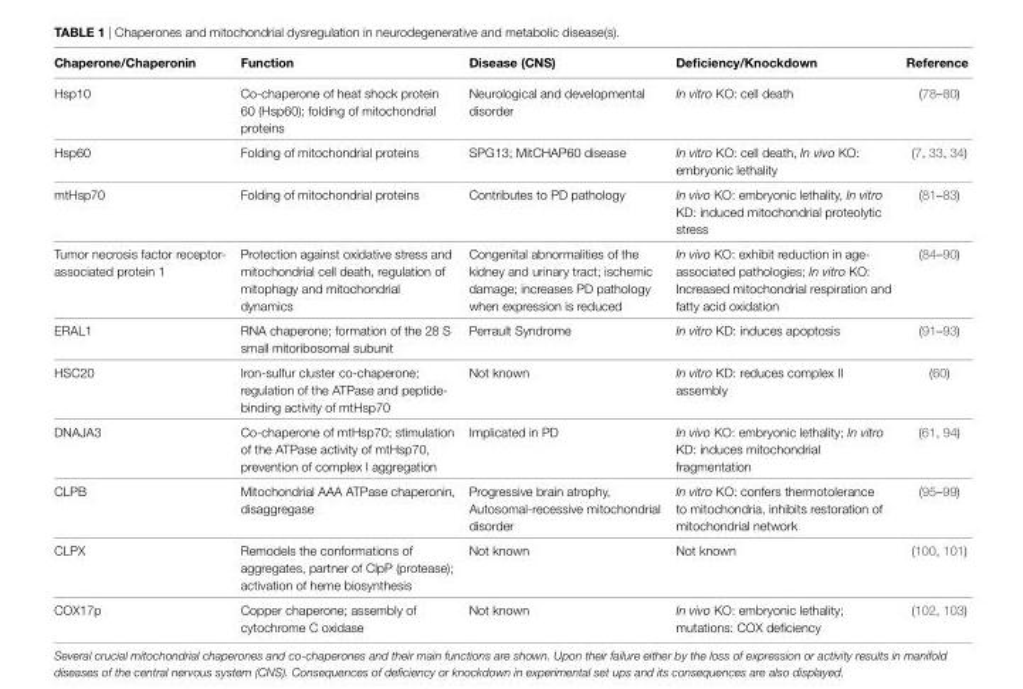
<table><thead><tr><td>Chaperone/Chaperonin</td><td>Function</td><td>disease (Cns)</td><td>deficiency/Knockdown</td><td>reference</td></tr></thead><tbody><tr><td>Hsp10</td><td>Co-chaperone of heat shock protein 60 (Hsp60); folding of mitochondrial proteins</td><td>Neurological and developmental disorder</td><td>In vitro KO: cell death</td><td>(78–80)</td></tr><tr><td>Hsp60</td><td>Folding of mitochondrial proteins</td><td>SPG13; MitCHAP60 disease</td><td>In vitro KO: cell death, In vivo KO: embryonic lethality</td><td>(7, 33, 34)</td></tr><tr><td>mtHsp70</td><td>Folding of mitochondrial proteins</td><td>Contributes to PD pathology</td><td>In vivo KO: embryonic lethality, In vitro KD: induced mitochondrial proteolytic stress</td><td>(81–83)</td></tr><tr><td>Tumor necrosis factor receptor- associated protein 1</td><td>Protection against oxidative stress and mitochondrial cell death, regulation of mitophagy and mitochondrial dynamics</td><td>Congenital abnormalities of the kidney and urinary tract; ischemic damage; increases PD pathology when expression is reduced</td><td>In vivo KO: exhibit reduction in age- associated pathologies; In vitro KO: Increased mitochondrial respiration and fatty acid oxidation</td><td>(84–90)</td></tr><tr><td>ERAL1</td><td>RNA chaperone; formation of the 28 S small mitoribosomal subunit</td><td>Perrault Syndrome</td><td>In vitro KD: induces apoptosis</td><td>(91–93)</td></tr><tr><td>HSC20</td><td>Iron-sulfur cluster co-chaperone; regulation of the ATPase and peptide- binding activity of mtHsp70</td><td>Not known</td><td>In vitro KD: reduces complex II assembly</td><td>(60)</td></tr><tr><td>DNAJA3</td><td>Co-chaperone of mtHsp70; stimulation of the ATPase activity of mtHsp70, prevention of complex I aggregation</td><td>Implicated in PD</td><td>In vivo KO: embryonic lethality; In vitro KD: induces mitochondrial fragmentation</td><td>(61, 94)</td></tr><tr><td>CLPB</td><td>Mitochondrial AAA ATPase chaperonin, disaggregase</td><td>Progressive brain atrophy, Autosomal-recessive mitochondrial disorder</td><td>In vitro KO: confers thermotolerance to mitochondria, inhibits restoration of mitochondrial network</td><td>(95–99)</td></tr><tr><td>CLPX</td><td>Remodels the conformations of aggregates, partner of ClpP (protease); activation of heme biosynthesis</td><td>Not known</td><td>Not known</td><td>(100, 101)</td></tr><tr><td>COX17p</td><td>Copper chaperone; assembly of cytochrome C oxidase</td><td>Not known</td><td>In vivo KO: embryonic lethality; mutations: COX deficiency</td><td>(102, 103)</td></tr></tbody></table>